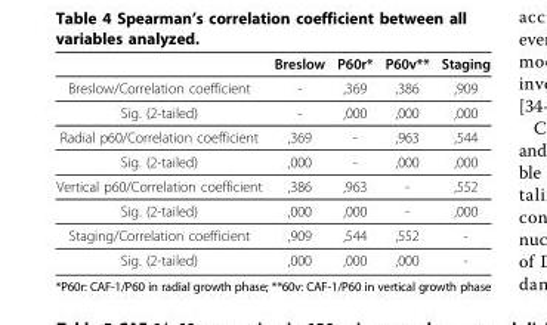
<table><thead><tr><td></td><td>Breslow</td><td>P60r*</td><td>P60v**</td><td>Staging</td></tr></thead><tbody><tr><td>Breslow/Correlation coefficient</td><td>-</td><td>,369</td><td>,386</td><td>,909</td></tr><tr><td>Sig. (2-tailed)</td><td>-</td><td>,000</td><td>,000</td><td>,000</td></tr><tr><td>Radial p60/Correlation coefficient</td><td>,369</td><td>-</td><td>,963</td><td>,544</td></tr><tr><td>Sig. (2-tailed)</td><td>,000</td><td>-</td><td>,000</td><td>,000</td></tr><tr><td>Vertical p60/Correlation coefficient</td><td>,386</td><td>,963</td><td>-</td><td>,552</td></tr><tr><td>Sig. (2-tailed)</td><td>,000</td><td>,000</td><td>-</td><td>,000</td></tr><tr><td>Staging/Correlation coefficient</td><td>,909</td><td>,544</td><td>,552</td><td>-</td></tr><tr><td>Sig. (2-tailed)</td><td>,000</td><td>,000</td><td>,000</td><td>-</td></tr></tbody></table>